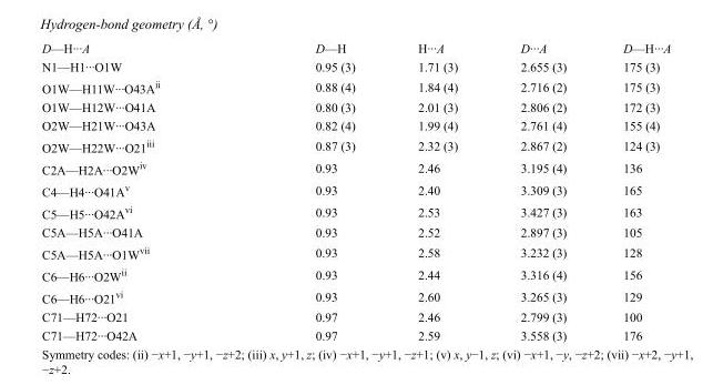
<table><tbody><tr><td>D—H···A</td><td>D—H</td><td>H···A</td><td>D···A</td><td>D—H···A</td></tr><tr><td>N1—H1···O1W</td><td>0.95 (3)</td><td>1.71 (3)</td><td>2.655 (3)</td><td>175 (3)</td></tr><tr><td>O1W—H11W···O43A<sup>ii</sup></td><td>0.88 (4)</td><td>1.84 (4)</td><td>2.716 (2)</td><td>175 (3)</td></tr><tr><td>O1W—H12W···O41A</td><td>0.80 (3)</td><td>2.01 (3)</td><td>2.806 (2)</td><td>172 (3)</td></tr><tr><td>O2W—H21W···O43A</td><td>0.82 (4)</td><td>1.99 (4)</td><td>2.761 (4)</td><td>155 (4)</td></tr><tr><td>O2W—H22W···O21<sup>iii</sup></td><td>0.87 (3)</td><td>2.32 (3)</td><td>2.867 (2)</td><td>124 (3)</td></tr><tr><td>C2A—H2A···O2W<sup>iv</sup></td><td>0.93</td><td>2.46</td><td>3.195 (4)</td><td>136</td></tr><tr><td>C4—H4···O41A<sup>v</sup></td><td>0.93</td><td>2.40</td><td>3.309 (3)</td><td>165</td></tr><tr><td>C5—H5···O42A<sup>vi</sup></td><td>0.93</td><td>2.53</td><td>3.427 (3)</td><td>163</td></tr><tr><td>C5A—H5A···O41A</td><td>0.93</td><td>2.52</td><td>2.897 (3)</td><td>105</td></tr><tr><td>C5A—H5A···O1W<sup>vii</sup></td><td>0.93</td><td>2.58</td><td>3.232 (3)</td><td>128</td></tr><tr><td>C6—H6···O2W<sup>ii</sup></td><td>0.93</td><td>2.44</td><td>3.316 (4)</td><td>156</td></tr><tr><td>C6—H6···O21<sup>vi</sup></td><td>0.93</td><td>2.60</td><td>3.265 (3)</td><td>129</td></tr><tr><td>C71—H72···O21</td><td>0.97</td><td>2.46</td><td>2.799 (3)</td><td>100</td></tr><tr><td>C71—H72···O42A</td><td>0.97</td><td>2.59</td><td>3.558 (3)</td><td>176</td></tr></tbody></table>